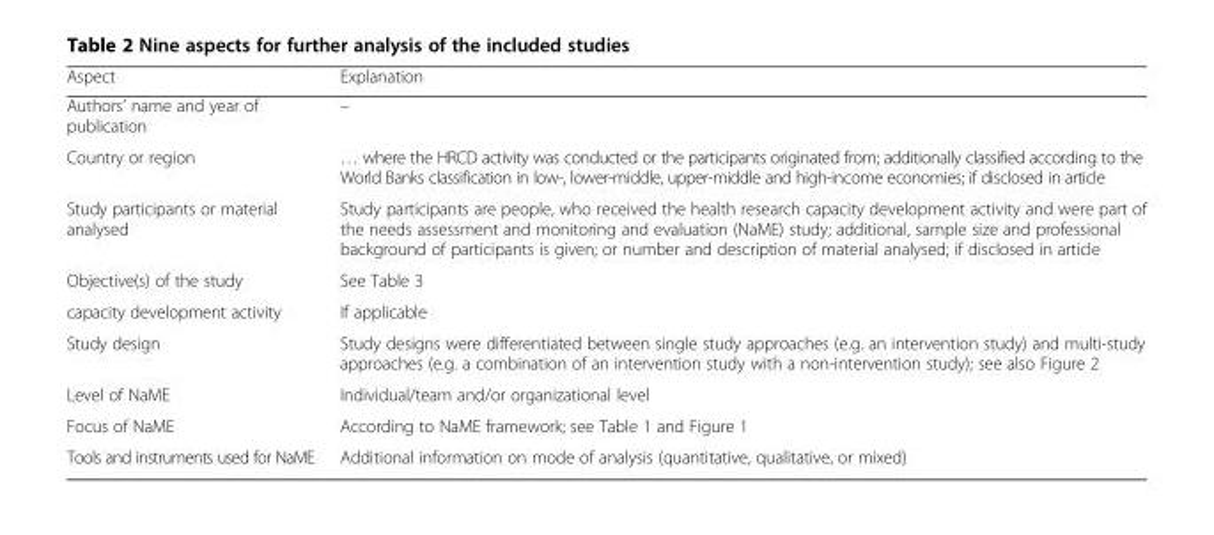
<table><thead><tr><td>Aspect</td><td>Explanation</td></tr></thead><tbody><tr><td>Authors’ name and year of publication</td><td>–</td></tr><tr><td>Country or region</td><td>… where the HRCD activity was conducted or the participants originated from; additionally classified according to the World Banks classification in low-, lower-middle, upper-middle and high-income economies; if disclosed in article</td></tr><tr><td>Study participants or material analysed</td><td>Study participants are people, who received the health research capacity development activity and were part of the needs assessment and monitoring and evaluation (NaME) study; additional, sample size and professional background of participants is given; or number and description of material analysed; if disclosed in article</td></tr><tr><td>Objective(s) of the study</td><td>See Table 3</td></tr><tr><td>capacity development activity</td><td>If applicable</td></tr><tr><td>Study design</td><td>Study designs were differentiated between single study approaches (e.g. an intervention study) and multi-study approaches (e.g. a combination of an intervention study with a non-intervention study); see also Figure 2</td></tr><tr><td>Level of NaME</td><td>Individual/team and/or organizational level</td></tr><tr><td>Focus of NaME</td><td>According to NaME framework; see Table 1 and Figure 1</td></tr><tr><td>Tools and instruments used for NaME</td><td>Additional information on mode of analysis (quantitative, qualitative, or mixed)</td></tr></tbody></table>